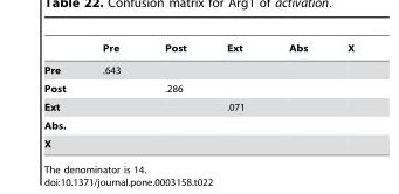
<table><thead><tr><td></td><td>Pre</td><td>Post</td><td>Ext</td><td>Abs</td><td>X</td></tr></thead><tbody><tr><td>Pre</td><td>.643</td><td></td><td></td><td></td><td></td></tr><tr><td>Post</td><td></td><td>.286</td><td></td><td></td><td></td></tr><tr><td>Ext</td><td></td><td></td><td>.071</td><td></td><td></td></tr><tr><td colspan="6">Abs.</td></tr><tr><td>X</td><td></td><td></td><td></td><td></td><td></td></tr></tbody></table>